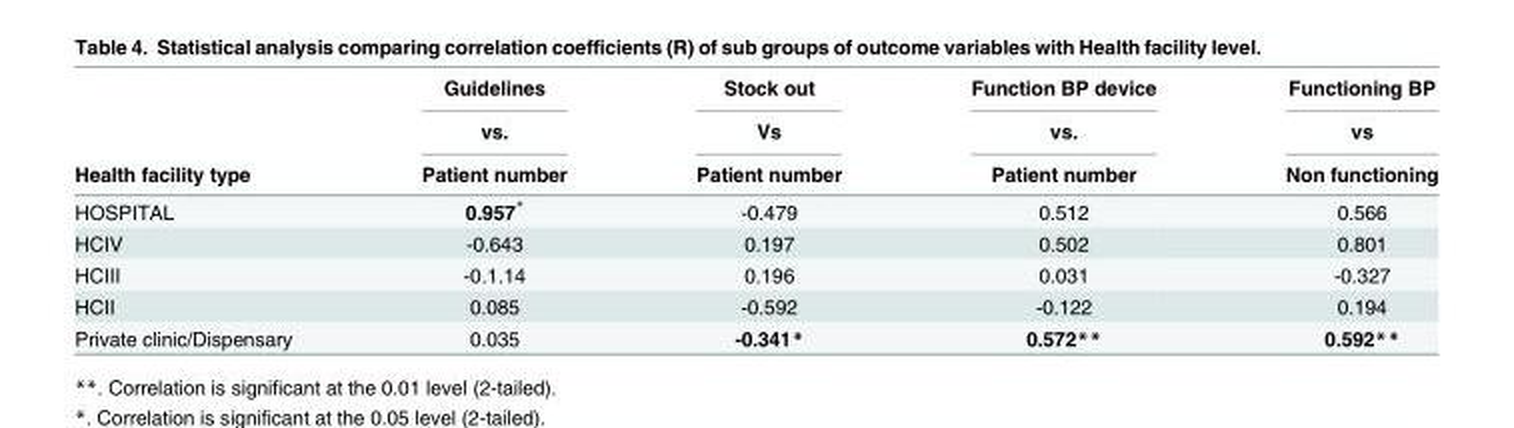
<table><thead><tr><td rowspan="3">Health facility type</td><td rowspan="3">Guidelines vs. Patient number</td><td rowspan="3">Stock out Vs Patient number</td><td rowspan="3">Function BP device vs. Patient number</td><td rowspan="3">Functioning BP vs Non functioning</td></tr><tr></tr><tr></tr></thead><tbody><tr><td>HOSPITAL</td><td>0.957*</td><td>-0.479</td><td>0.512</td><td>0.566</td></tr><tr><td>HCIV</td><td>-0.643</td><td>0.197</td><td>0.502</td><td>0.801</td></tr><tr><td>HCIII</td><td>-0.1.14</td><td>0.196</td><td>0.031</td><td>-0.327</td></tr><tr><td>HCII</td><td>0.085</td><td>-0.592</td><td>-0.122</td><td>0.194</td></tr><tr><td>Private clinic/Dispensary</td><td>0.035</td><td>-0.341*</td><td>0.572**</td><td>0.592**</td></tr></tbody></table>